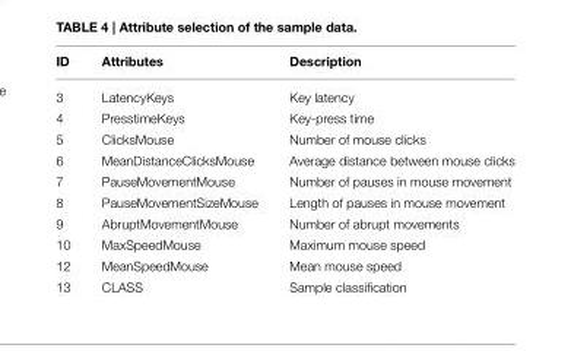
<table><thead><tr><td>ID</td><td>Attributes</td><td>Description</td></tr></thead><tbody><tr><td>3</td><td>LatencyKeys</td><td>Key latency</td></tr><tr><td>4</td><td>PresstimeKeys</td><td>Key-press time</td></tr><tr><td>5</td><td>ClicksMouse</td><td>Number of mouse clicks</td></tr><tr><td>6</td><td>MeanDistanceClicksMouse</td><td>Average distance between mouse clicks</td></tr><tr><td>7</td><td>PauseMovementMouse</td><td>Number of pauses in mouse movement</td></tr><tr><td>8</td><td>PauseMovementSizeMouse</td><td>Length of pauses in mouse movement</td></tr><tr><td>9</td><td>AbruptMovementMouse</td><td>Number of abrupt movements</td></tr><tr><td>10</td><td>MaxSpeedMouse</td><td>Maximum mouse speed</td></tr><tr><td>12</td><td>MeanSpeedMouse</td><td>Mean mouse speed</td></tr><tr><td>13</td><td>CLASS</td><td>Sample classification</td></tr></tbody></table>